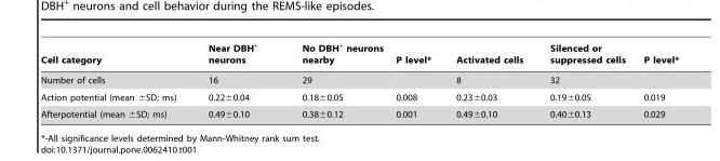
<table><thead><tr><td>Cell category</td><td>Near DBH<sup>+</sup> neurons</td><td>No DBH<sup>+</sup> neurons nearby</td><td>P level*</td><td>Activated cells</td><td>Silenced or suppressed cells</td><td>P level*</td></tr></thead><tbody><tr><td>Number of cells</td><td>16</td><td>29</td><td></td><td>8</td><td>32</td><td></td></tr><tr><td>Action potential (mean ±SD; ms)</td><td>0.22±0.04</td><td>0.18±0.05</td><td>0.008</td><td>0.23±0.03</td><td>0.19±0.05</td><td>0.019</td></tr><tr><td>Afterpotential (mean ±SD; ms)</td><td>0.49±0.10</td><td>0.38±0.12</td><td>0.001</td><td>0.49±0.10</td><td>0.40±0.13</td><td>0.029</td></tr></tbody></table>